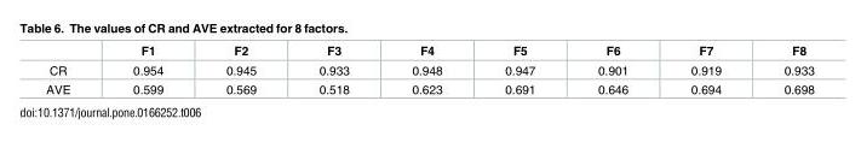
<table><thead><tr><td></td><td>F1</td><td>F2</td><td>F3</td><td>F4</td><td>F5</td><td>F6</td><td>F7</td><td>F8</td></tr></thead><tbody><tr><td>CR</td><td>0.954</td><td>0.945</td><td>0.933</td><td>0.948</td><td>0.947</td><td>0.901</td><td>0.919</td><td>0.933</td></tr><tr><td>AVE</td><td>0.599</td><td>0.569</td><td>0.518</td><td>0.623</td><td>0.691</td><td>0.646</td><td>0.694</td><td>0.698</td></tr></tbody></table>